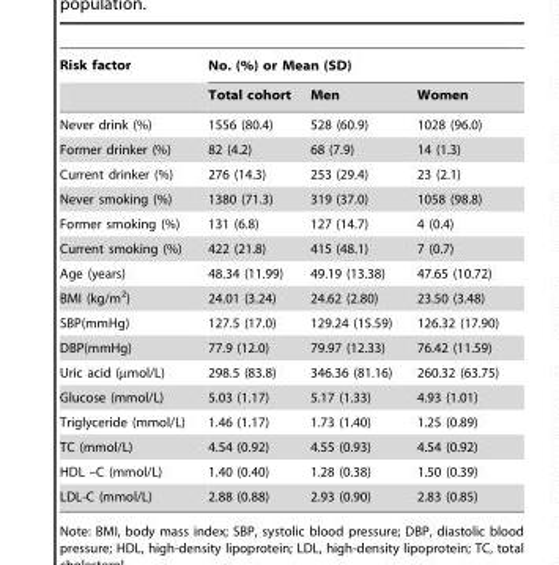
<table><thead><tr><td rowspan="2">Risk factor</td><td colspan="3">No. (%) or Mean (SD)</td></tr><tr><td>Total cohort</td><td>Men</td><td>Women</td></tr></thead><tbody><tr><td>Never drink (%)</td><td>1556 (80.4)</td><td>528 (60.9)</td><td>1028 (96.0)</td></tr><tr><td>Former drinker (%)</td><td>82 (4.2)</td><td>68 (7.9)</td><td>14 (1.3)</td></tr><tr><td>Current drinker (%)</td><td>276 (14.3)</td><td>253 (29.4)</td><td>23 (2.1)</td></tr><tr><td>Never smoking (%)</td><td>1380 (71.3)</td><td>319 (37.0)</td><td>1058 (98.8)</td></tr><tr><td>Former smoking (%)</td><td>131 (6.8)</td><td>127 (14.7)</td><td>4 (0.4)</td></tr><tr><td>Current smoking (%)</td><td>422 (21.8)</td><td>415 (48.1)</td><td>7 (0.7)</td></tr><tr><td>Age (years)</td><td>48.34 (11.99)</td><td>49.19 (13.38)</td><td>47.65 (10.72)</td></tr><tr><td>BMI (kg/m<sup>2</sup>)</td><td>24.01 (3.24)</td><td>24.62 (2.80)</td><td>23.50 (3.48)</td></tr><tr><td>SBP(mmHg)</td><td>127.5 (17.0)</td><td>129.24 (15.59)</td><td>126.32 (17.90)</td></tr><tr><td>DBP(mmHg)</td><td>77.9 (12.0)</td><td>79.97 (12.33)</td><td>76.42 (11.59)</td></tr><tr><td>Uric acid (µmol/L)</td><td>298.5 (83.8)</td><td>346.36 (81.16)</td><td>260.32 (63.75)</td></tr><tr><td>Glucose (mmol/L)</td><td>5.03 (1.17)</td><td>5.17 (1.33)</td><td>4.93 (1.01)</td></tr><tr><td>Triglyceride (mmol/L)</td><td>1.46 (1.17)</td><td>1.73 (1.40)</td><td>1.25 (0.89)</td></tr><tr><td>TC (mmol/L)</td><td>4.54 (0.92)</td><td>4.55 (0.93)</td><td>4.54 (0.92)</td></tr><tr><td>HDL –C (mmol/L)</td><td>1.40 (0.40)</td><td>1.28 (0.38)</td><td>1.50 (0.39)</td></tr><tr><td>LDL-C (mmol/L)</td><td>2.88 (0.88)</td><td>2.93 (0.90)</td><td>2.83 (0.85)</td></tr></tbody></table>